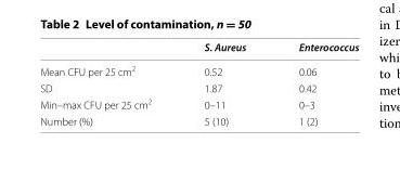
<table><thead><tr><td></td><td>S. Aureus</td><td>Enterococcus</td></tr></thead><tbody><tr><td>Mean CFU per 25 cm<sup>2</sup></td><td>0.52</td><td>0.06</td></tr><tr><td>SD</td><td>1.87</td><td>0.42</td></tr><tr><td>Min–max CFU per 25 cm<sup>2</sup></td><td>0–11</td><td>0–3</td></tr><tr><td>Number (%)</td><td>5 (10)</td><td>1 (2)</td></tr></tbody></table>